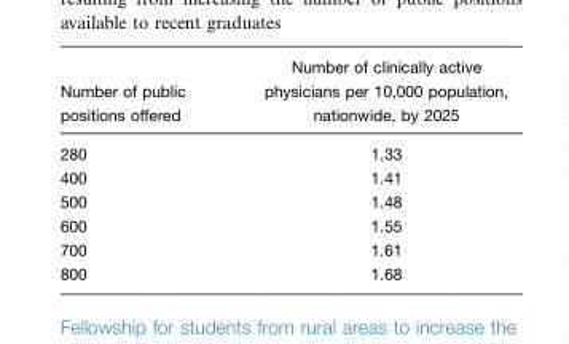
<table><thead><tr><td>Number of public positions offered</td><td>Number of clinically active physicians per 10,000 population, nationwide, by 2025</td></tr></thead><tbody><tr><td>280</td><td>1.33</td></tr><tr><td>400</td><td>1.41</td></tr><tr><td>500</td><td>1.48</td></tr><tr><td>600</td><td>1.55</td></tr><tr><td>700</td><td>1.61</td></tr><tr><td>800</td><td>1.68</td></tr></tbody></table>